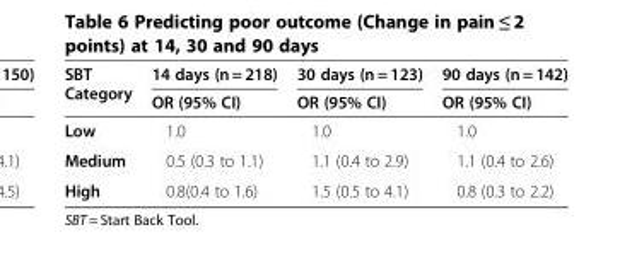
<table><thead><tr><td rowspan="2">SBT Category</td><td rowspan="2">14 days (n = 218) OR (95% CI)</td><td rowspan="2">30 days (n = 123) OR (95% CI)</td><td rowspan="2">90 days (n = 142) OR (95% CI)</td></tr><tr></tr></thead><tbody><tr><td>Low</td><td>1.0</td><td>1.0</td><td>1.0</td></tr><tr><td>Medium</td><td>0.5 (0.3 to 1.1)</td><td>1.1 (0.4 to 2.9)</td><td>1.1 (0.4 to 2.6)</td></tr><tr><td>High</td><td>0.8(0.4 to 1.6)</td><td>1.5 (0.5 to 4.1)</td><td>0.8 (0.3 to 2.2)</td></tr></tbody></table>